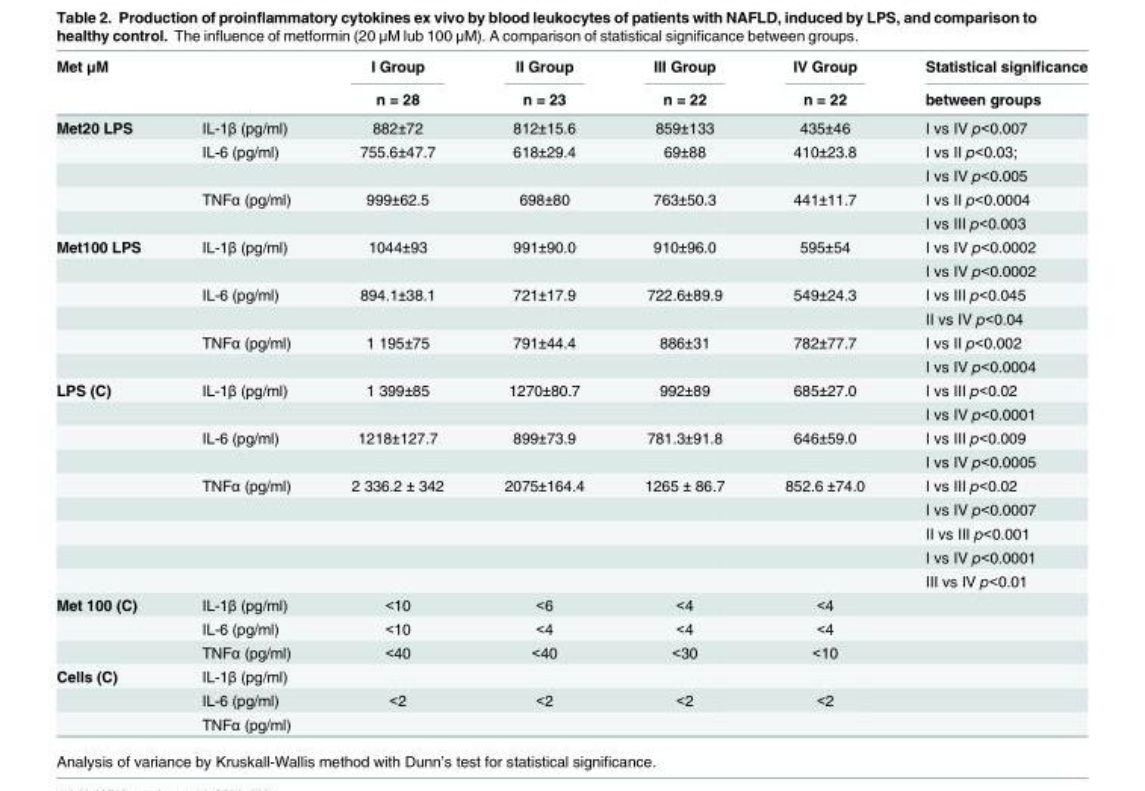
<table><thead><tr><td rowspan="2">Met μM</td><td rowspan="2"></td><td rowspan="2">I Group n = 28</td><td rowspan="2">II Group n = 23</td><td rowspan="2">III Group n = 22</td><td rowspan="2">IV Group n = 22</td><td rowspan="2">Statistical significance between groups</td></tr><tr></tr></thead><tbody><tr><td rowspan="5">Met20 LPS</td><td>IL-1β (pg/ml)</td><td>882±72</td><td>812±15.6</td><td>859±133</td><td>435±46</td><td>I vs IV p&lt;0.007</td></tr><tr><td>IL-6 (pg/ml)</td><td>755.6±47.7</td><td>618±29.4</td><td>69±88</td><td>410±23.8</td><td>I vs II p&lt;0.03;</td></tr><tr><td></td><td></td><td></td><td></td><td></td><td>I vs IV p&lt;0.005</td></tr><tr><td>TNFα (pg/ml)</td><td>999±62.5</td><td>698±80</td><td>763±50.3</td><td>441±11.7</td><td>I vs II p&lt;0.0004</td></tr><tr><td></td><td></td><td></td><td></td><td></td><td>I vs III p&lt;0.003</td></tr><tr><td rowspan="6">Met100 LPS</td><td>IL-1β (pg/ml)</td><td>1044±93</td><td>991±90.0</td><td>910±96.0</td><td>595±54</td><td>I vs IV p&lt;0.0002</td></tr><tr><td></td><td></td><td></td><td></td><td></td><td>I vs IV p&lt;0.0002</td></tr><tr><td>IL-6 (pg/ml)</td><td>894.1±38.1</td><td>721±17.9</td><td>722.6±89.9</td><td>549±24.3</td><td>I vs III p&lt;0.045</td></tr><tr><td></td><td></td><td></td><td></td><td></td><td>II vs IV p&lt;0.04</td></tr><tr><td>TNFα (pg/ml)</td><td>1 195±75</td><td>791±44.4</td><td>886±31</td><td>782±77.7</td><td>I vs II p&lt;0.002</td></tr><tr><td></td><td></td><td></td><td></td><td></td><td>I vs IV p&lt;0.0004</td></tr><tr><td rowspan="9">LPS (C)</td><td>IL-1β (pg/ml)</td><td>1 399±85</td><td>1270±80.7</td><td>992±89</td><td>685±27.0</td><td>I vs III p&lt;0.02</td></tr><tr><td></td><td></td><td></td><td></td><td></td><td>I vs IV p&lt;0.0001</td></tr><tr><td>IL-6 (pg/ml)</td><td>1218±127.7</td><td>899±73.9</td><td>781.3±91.8</td><td>646±59.0</td><td>I vs III p&lt;0.009</td></tr><tr><td></td><td></td><td></td><td></td><td></td><td>I vs IV p&lt;0.0005</td></tr><tr><td>TNFα (pg/ml)</td><td>2 336.2 ± 342</td><td>2075±164.4</td><td>1265 ± 86.7</td><td>852.6 ±74.0</td><td>I vs III p&lt;0.02</td></tr><tr><td></td><td></td><td></td><td></td><td></td><td>I vs IV p&lt;0.0007</td></tr><tr><td></td><td></td><td></td><td></td><td></td><td>II vs III p&lt;0.001</td></tr><tr><td></td><td></td><td></td><td></td><td></td><td>I vs IV p&lt;0.0001</td></tr><tr><td></td><td></td><td></td><td></td><td></td><td>III vs IV p&lt;0.01</td></tr><tr><td rowspan="3">Met 100 (C)</td><td>IL-1β (pg/ml)</td><td>&lt;10</td><td>&lt;6</td><td>&lt;4</td><td>&lt;4</td><td></td></tr><tr><td>IL-6 (pg/ml)</td><td>&lt;10</td><td>&lt;4</td><td>&lt;4</td><td>&lt;4</td><td></td></tr><tr><td>TNFα (pg/ml)</td><td>&lt;40</td><td>&lt;40</td><td>&lt;30</td><td>&lt;10</td><td></td></tr><tr><td rowspan="3">Cells (C)</td><td>IL-1β (pg/ml)</td><td></td><td></td><td></td><td></td><td></td></tr><tr><td>IL-6 (pg/ml)</td><td>&lt;2</td><td>&lt;2</td><td>&lt;2</td><td>&lt;2</td><td></td></tr><tr><td>TNFα (pg/ml)</td><td></td><td></td><td></td><td></td><td></td></tr></tbody></table>